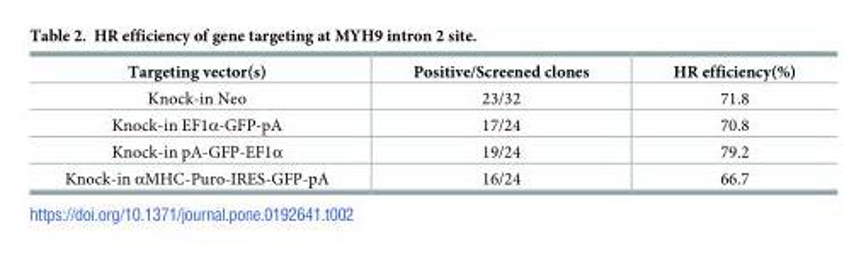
<table><thead><tr><td>Targeting vector(s)</td><td>Positive/Screened clones</td><td>HR efficiency(%)</td></tr></thead><tbody><tr><td>Knock-in Neo</td><td>23/32</td><td>71.8</td></tr><tr><td>Knock-in EF1α-GFP-pA</td><td>17/24</td><td>70.8</td></tr><tr><td>Knock-in pA-GFP-EF1α</td><td>19/24</td><td>79.2</td></tr><tr><td>Knock-in αMHC-Puro-IRES-GFP-pA</td><td>16/24</td><td>66.7</td></tr></tbody></table>